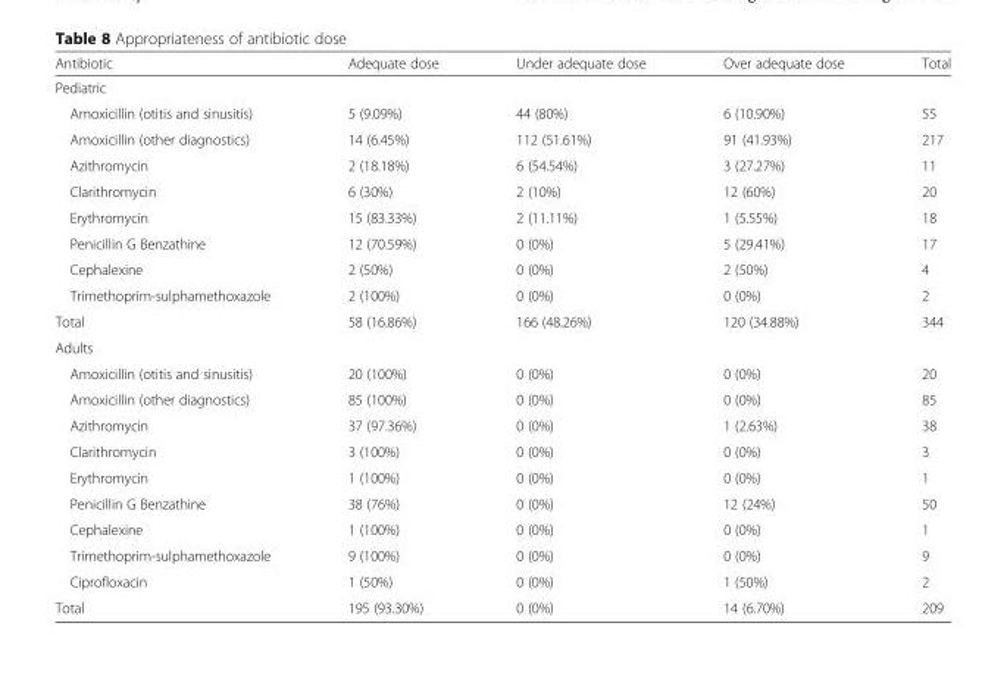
<table><thead><tr><td>Antibiotic</td><td>Adequate dose</td><td>Under adequate dose</td><td>Over adequate dose</td><td>Total</td></tr></thead><tbody><tr><td colspan="5">Pediatric</td></tr><tr><td>Amoxicillin (otitis and sinusitis)</td><td>5 (9.09%)</td><td>44 (80%)</td><td>6 (10.90%)</td><td>55</td></tr><tr><td>Amoxicillin (other diagnostics)</td><td>14 (6.45%)</td><td>112 (51.61%)</td><td>91 (41.93%)</td><td>217</td></tr><tr><td>Azithromycin</td><td>2 (18.18%)</td><td>6 (54.54%)</td><td>3 (27.27%)</td><td>11</td></tr><tr><td>Clarithromycin</td><td>6 (30%)</td><td>2 (10%)</td><td>12 (60%)</td><td>20</td></tr><tr><td>Erythromycin</td><td>15 (83.33%)</td><td>2 (11.11%)</td><td>1 (5.55%)</td><td>18</td></tr><tr><td>Penicillin G Benzathine</td><td>12 (70.59%)</td><td>0 (0%)</td><td>5 (29.41%)</td><td>17</td></tr><tr><td>Cephalexine</td><td>2 (50%)</td><td>0 (0%)</td><td>2 (50%)</td><td>4</td></tr><tr><td>Trimethoprim-sulphamethoxazole</td><td>2 (100%)</td><td>0 (0%)</td><td>0 (0%)</td><td>2</td></tr><tr><td>Total</td><td>58 (16.86%)</td><td>166 (48.26%)</td><td>120 (34.88%)</td><td>344</td></tr><tr><td colspan="5">Adults</td></tr><tr><td>Amoxicillin (otitis and sinusitis)</td><td>20 (100%)</td><td>0 (0%)</td><td>0 (0%)</td><td>20</td></tr><tr><td>Amoxicillin (other diagnostics)</td><td>85 (100%)</td><td>0 (0%)</td><td>0 (0%)</td><td>85</td></tr><tr><td>Azithromycin</td><td>37 (97.36%)</td><td>0 (0%)</td><td>1 (2.63%)</td><td>38</td></tr><tr><td>Clarithromycin</td><td>3 (100%)</td><td>0 (0%)</td><td>0 (0%)</td><td>3</td></tr><tr><td>Erythromycin</td><td>1 (100%)</td><td>0 (0%)</td><td>0 (0%)</td><td>1</td></tr><tr><td>Penicillin G Benzathine</td><td>38 (76%)</td><td>0 (0%)</td><td>12 (24%)</td><td>50</td></tr><tr><td>Cephalexine</td><td>1 (100%)</td><td>0 (0%)</td><td>0 (0%)</td><td>1</td></tr><tr><td>Trimethoprim-sulphamethoxazole</td><td>9 (100%)</td><td>0 (0%)</td><td>0 (0%)</td><td>9</td></tr><tr><td>Ciprofloxacin</td><td>1 (50%)</td><td>0 (0%)</td><td>1 (50%)</td><td>2</td></tr><tr><td>Total</td><td>195 (93.30%)</td><td>0 (0%)</td><td>14 (6.70%)</td><td>209</td></tr></tbody></table>